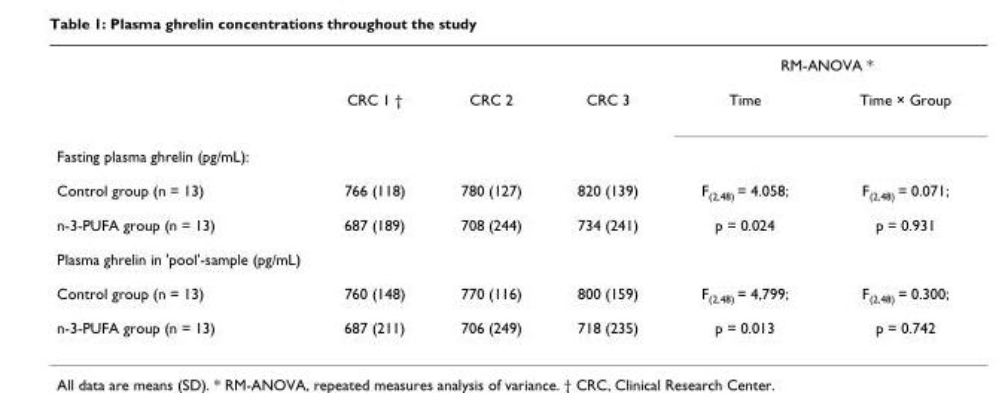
<table><thead><tr><td rowspan="2"></td><td rowspan="2">CRC 1 †</td><td rowspan="2">CRC 2</td><td rowspan="2">CRC 3</td><td colspan="2">RM-ANOVA *</td></tr><tr><td>Time</td><td>Time × Group</td></tr></thead><tbody><tr><td colspan="6">Fasting plasma ghrelin (pg/mL):</td></tr><tr><td>Control group (n = 13)</td><td>766 (118)</td><td>780 (127)</td><td>820 (139)</td><td>F<sub>(2,48)</sub> = 4.058;</td><td>F<sub>(2,48)</sub> = 0.071;</td></tr><tr><td>n-3-PUFA group (n = 13)</td><td>687 (189)</td><td>708 (244)</td><td>734 (241)</td><td>p = 0.024</td><td>p = 0.931</td></tr><tr><td colspan="6">Plasma ghrelin in &#x27;pool&#x27;-sample (pg/mL)</td></tr><tr><td>Control group (n = 13)</td><td>760 (148)</td><td>770 (116)</td><td>800 (159)</td><td>F<sub>(2,48)</sub> = 4,799;</td><td>F<sub>(2,48)</sub> = 0.300;</td></tr><tr><td>n-3-PUFA group (n = 13)</td><td>687 (211)</td><td>706 (249)</td><td>718 (235)</td><td>p = 0.013</td><td>p = 0.742</td></tr></tbody></table>